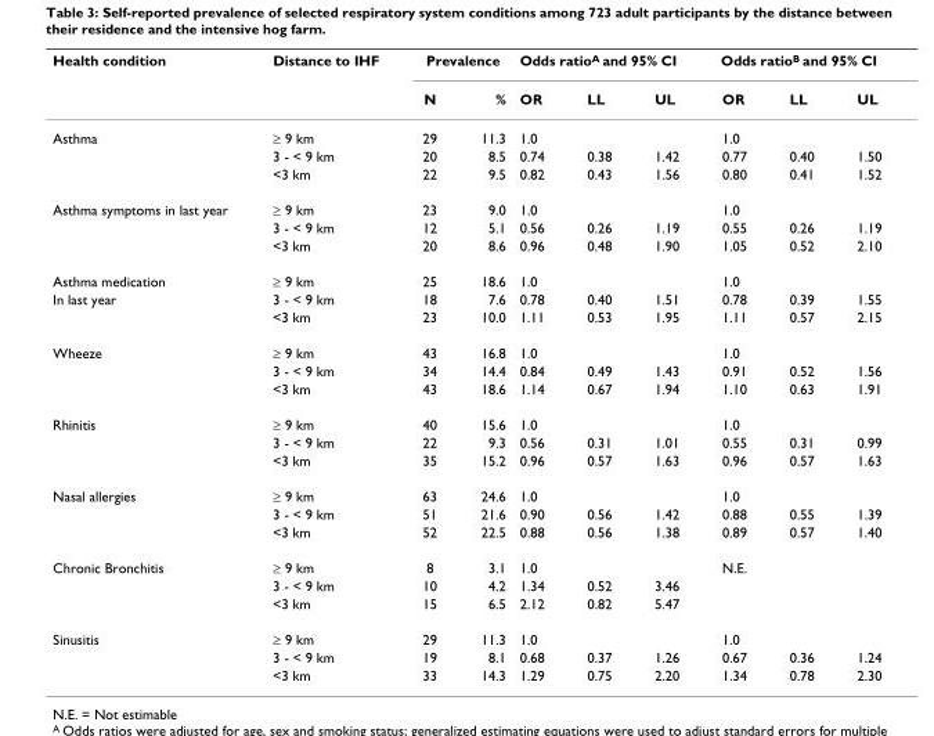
<table><thead><tr><td rowspan="2">Health condition</td><td rowspan="2">Distance to IHF</td><td colspan="2">Prevalence</td><td colspan="3">Odds ratio<sup>A</sup> and 95% CI</td><td colspan="3">Odds ratio<sup>B</sup> and 95% CI</td></tr><tr><td>N</td><td>%</td><td>OR</td><td>LL</td><td>UL</td><td>OR</td><td>LL</td><td>UL</td></tr></thead><tbody><tr><td rowspan="3">Asthma</td><td>≥ 9 km</td><td>29</td><td>11.3</td><td>1.0</td><td></td><td></td><td>1.0</td><td></td><td></td></tr><tr><td>3 - &lt; 9 km</td><td>20</td><td>8.5</td><td>0.74</td><td>0.38</td><td>1.42</td><td>0.77</td><td>0.40</td><td>1.50</td></tr><tr><td>&lt;3 km</td><td>22</td><td>9.5</td><td>0.82</td><td>0.43</td><td>1.56</td><td>0.80</td><td>0.41</td><td>1.52</td></tr><tr><td rowspan="3">Asthma symptoms in last year</td><td>≥ 9 km</td><td>23</td><td>9.0</td><td>1.0</td><td></td><td></td><td>1.0</td><td></td><td></td></tr><tr><td>3 - &lt; 9 km</td><td>12</td><td>5.1</td><td>0.56</td><td>0.26</td><td>1.19</td><td>0.55</td><td>0.26</td><td>1.19</td></tr><tr><td>&lt;3 km</td><td>20</td><td>8.6</td><td>0.96</td><td>0.48</td><td>1.90</td><td>1.05</td><td>0.52</td><td>2.10</td></tr><tr><td>Asthma medication</td><td>≥ 9 km</td><td>25</td><td>18.6</td><td>1.0</td><td></td><td></td><td>1.0</td><td></td><td></td></tr><tr><td rowspan="2">In last year</td><td>3 - &lt; 9 km</td><td>18</td><td>7.6</td><td>0.78</td><td>0.40</td><td>1.51</td><td>0.78</td><td>0.39</td><td>1.55</td></tr><tr><td>&lt;3 km</td><td>23</td><td>10.0</td><td>1.11</td><td>0.53</td><td>1.95</td><td>1.11</td><td>0.57</td><td>2.15</td></tr><tr><td rowspan="3">Wheeze</td><td>≥ 9 km</td><td>43</td><td>16.8</td><td>1.0</td><td></td><td></td><td>1.0</td><td></td><td></td></tr><tr><td>3 - &lt; 9 km</td><td>34</td><td>14.4</td><td>0.84</td><td>0.49</td><td>1.43</td><td>0.91</td><td>0.52</td><td>1.56</td></tr><tr><td>&lt;3 km</td><td>43</td><td>18.6</td><td>1.14</td><td>0.67</td><td>1.94</td><td>1.10</td><td>0.63</td><td>1.91</td></tr><tr><td rowspan="3">Rhinitis</td><td>≥ 9 km</td><td>40</td><td>15.6</td><td>1.0</td><td></td><td></td><td>1.0</td><td></td><td></td></tr><tr><td>3 - &lt; 9 km</td><td>22</td><td>9.3</td><td>0.56</td><td>0.31</td><td>1.01</td><td>0.55</td><td>0.31</td><td>0.99</td></tr><tr><td>&lt;3 km</td><td>35</td><td>15.2</td><td>0.96</td><td>0.57</td><td>1.63</td><td>0.96</td><td>0.57</td><td>1.63</td></tr><tr><td rowspan="3">Nasal allergies</td><td>≥ 9 km</td><td>63</td><td>24.6</td><td>1.0</td><td></td><td></td><td>1.0</td><td></td><td></td></tr><tr><td>3 - &lt; 9 km</td><td>51</td><td>21.6</td><td>0.90</td><td>0.56</td><td>1.42</td><td>0.88</td><td>0.55</td><td>1.39</td></tr><tr><td>&lt;3 km</td><td>52</td><td>22.5</td><td>0.88</td><td>0.56</td><td>1.38</td><td>0.89</td><td>0.57</td><td>1.40</td></tr><tr><td rowspan="3">Chronic Bronchitis</td><td>≥ 9 km</td><td>8</td><td>3.1</td><td>1.0</td><td></td><td></td><td>N.E.</td><td></td><td></td></tr><tr><td>3 - &lt; 9 km</td><td>10</td><td>4.2</td><td>1.34</td><td>0.52</td><td>3.46</td><td></td><td></td><td></td></tr><tr><td>&lt;3 km</td><td>15</td><td>6.5</td><td>2.12</td><td>0.82</td><td>5.47</td><td></td><td></td><td></td></tr><tr><td rowspan="3">Sinusitis</td><td>≥ 9 km</td><td>29</td><td>11.3</td><td>1.0</td><td></td><td></td><td>1.0</td><td></td><td></td></tr><tr><td>3 - &lt; 9 km</td><td>19</td><td>8.1</td><td>0.68</td><td>0.37</td><td>1.26</td><td>0.67</td><td>0.36</td><td>1.24</td></tr><tr><td>&lt;3 km</td><td>33</td><td>14.3</td><td>1.29</td><td>0.75</td><td>2.20</td><td>1.34</td><td>0.78</td><td>2.30</td></tr></tbody></table>